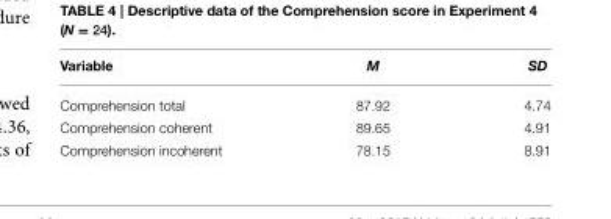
<table><thead><tr><td>Variable</td><td>M</td><td>SD</td></tr></thead><tbody><tr><td>Comprehension total</td><td>87.92</td><td>4.74</td></tr><tr><td>Comprehension coherent</td><td>89.65</td><td>4.91</td></tr><tr><td>Comprehension incoherent</td><td>78.15</td><td>8.91</td></tr></tbody></table>